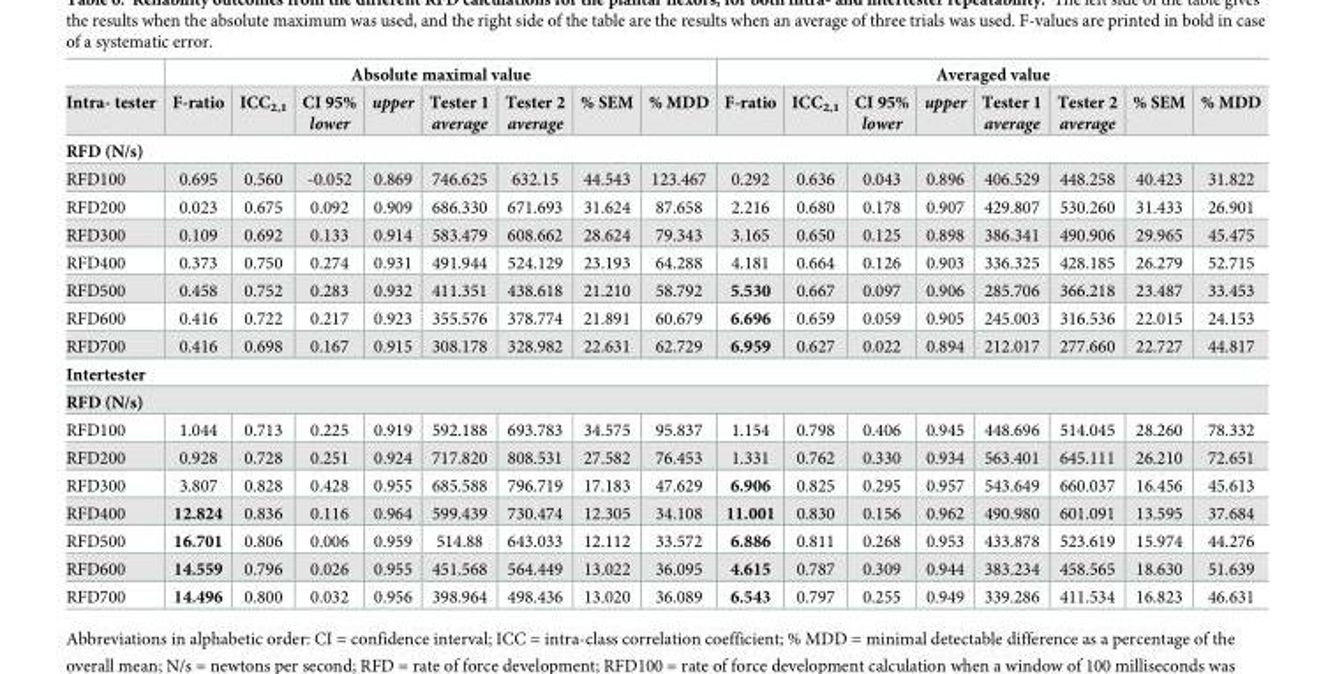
<table><thead><tr><td rowspan="2">Intra- tester</td><td colspan="8">Absolute maximal value</td><td colspan="8">Averaged value</td></tr><tr><td>F-ratio</td><td>ICC<sub>2,1</sub></td><td>CI 95% lower</td><td>upper</td><td>Tester 1 average</td><td>Tester 2 average</td><td>% SEM</td><td>% MDD</td><td>F-ratio</td><td>ICC<sub>2,1</sub></td><td>CI 95% lower</td><td>upper</td><td>Tester 1 average</td><td>Tester 2 average</td><td>% SEM</td><td>% MDD</td></tr></thead><tbody><tr><td colspan="17">RFD (N/s)</td></tr><tr><td>RFD100</td><td>0.695</td><td>0.560</td><td>-0.052</td><td>0.869</td><td>746.625</td><td>632.15</td><td>44.543</td><td>123.467</td><td>0.292</td><td>0.636</td><td>0.043</td><td>0.896</td><td>406.529</td><td>448.258</td><td>40.423</td><td>31.822</td></tr><tr><td>RFD200</td><td>0.023</td><td>0.675</td><td>0.092</td><td>0.909</td><td>686.330</td><td>671.693</td><td>31.624</td><td>87.658</td><td>2.216</td><td>0.680</td><td>0.178</td><td>0.907</td><td>429.807</td><td>530.260</td><td>31.433</td><td>26.901</td></tr><tr><td>RFD300</td><td>0.109</td><td>0.692</td><td>0.133</td><td>0.914</td><td>583.479</td><td>608.662</td><td>28.624</td><td>79.343</td><td>3.165</td><td>0.650</td><td>0.125</td><td>0.898</td><td>386.341</td><td>490.906</td><td>29.965</td><td>45.475</td></tr><tr><td>RFD400</td><td>0.373</td><td>0.750</td><td>0.274</td><td>0.931</td><td>491.944</td><td>524.129</td><td>23.193</td><td>64.288</td><td>4.181</td><td>0.664</td><td>0.126</td><td>0.903</td><td>336.325</td><td>428.185</td><td>26.279</td><td>52.715</td></tr><tr><td>RFD500</td><td>0.458</td><td>0.752</td><td>0.283</td><td>0.932</td><td>411.351</td><td>438.618</td><td>21.210</td><td>58.792</td><td>5.530</td><td>0.667</td><td>0.097</td><td>0.906</td><td>285.706</td><td>366.218</td><td>23.487</td><td>33.453</td></tr><tr><td>RFD600</td><td>0.416</td><td>0.722</td><td>0.217</td><td>0.923</td><td>355.576</td><td>378.774</td><td>21.891</td><td>60.679</td><td>6.696</td><td>0.659</td><td>0.059</td><td>0.905</td><td>245.003</td><td>316.536</td><td>22.015</td><td>24.153</td></tr><tr><td>RFD700</td><td>0.416</td><td>0.698</td><td>0.167</td><td>0.915</td><td>308.178</td><td>328.982</td><td>22.631</td><td>62.729</td><td>6.959</td><td>0.627</td><td>0.022</td><td>0.894</td><td>212.017</td><td>277.660</td><td>22.727</td><td>44.817</td></tr><tr><td colspan="17">Intertester</td></tr><tr><td colspan="17">RFD (N/s)</td></tr><tr><td>RFD100</td><td>1.044</td><td>0.713</td><td>0.225</td><td>0.919</td><td>592.188</td><td>693.783</td><td>34.575</td><td>95.837</td><td>1.154</td><td>0.798</td><td>0.406</td><td>0.945</td><td>448.696</td><td>514.045</td><td>28.260</td><td>78.332</td></tr><tr><td>RFD200</td><td>0.928</td><td>0.728</td><td>0.251</td><td>0.924</td><td>717.820</td><td>808.531</td><td>27.582</td><td>76.453</td><td>1.331</td><td>0.762</td><td>0.330</td><td>0.934</td><td>563.401</td><td>645.111</td><td>26.210</td><td>72.651</td></tr><tr><td>RFD300</td><td>3.807</td><td>0.828</td><td>0.428</td><td>0.955</td><td>685.588</td><td>796.719</td><td>17.183</td><td>47.629</td><td>6.906</td><td>0.825</td><td>0.295</td><td>0.957</td><td>543.649</td><td>660.037</td><td>16.456</td><td>45.613</td></tr><tr><td>RFD400</td><td>12.824</td><td>0.836</td><td>0.116</td><td>0.964</td><td>599.439</td><td>730.474</td><td>12.305</td><td>34.108</td><td>11.001</td><td>0.830</td><td>0.156</td><td>0.962</td><td>490.980</td><td>601.091</td><td>13.595</td><td>37.684</td></tr><tr><td>RFD500</td><td>16.701</td><td>0.806</td><td>0.006</td><td>0.959</td><td>514.88</td><td>643.033</td><td>12.112</td><td>33.572</td><td>6.886</td><td>0.811</td><td>0.268</td><td>0.953</td><td>433.878</td><td>523.619</td><td>15.974</td><td>44.276</td></tr><tr><td>RFD600</td><td>14.559</td><td>0.796</td><td>0.026</td><td>0.955</td><td>451.568</td><td>564.449</td><td>13.022</td><td>36.095</td><td>4.615</td><td>0.787</td><td>0.309</td><td>0.944</td><td>383.234</td><td>458.565</td><td>18.630</td><td>51.639</td></tr><tr><td>RFD700</td><td>14.496</td><td>0.800</td><td>0.032</td><td>0.956</td><td>398.964</td><td>498.436</td><td>13.020</td><td>36.089</td><td>6.543</td><td>0.797</td><td>0.255</td><td>0.949</td><td>339.286</td><td>411.534</td><td>16.823</td><td>46.631</td></tr></tbody></table>